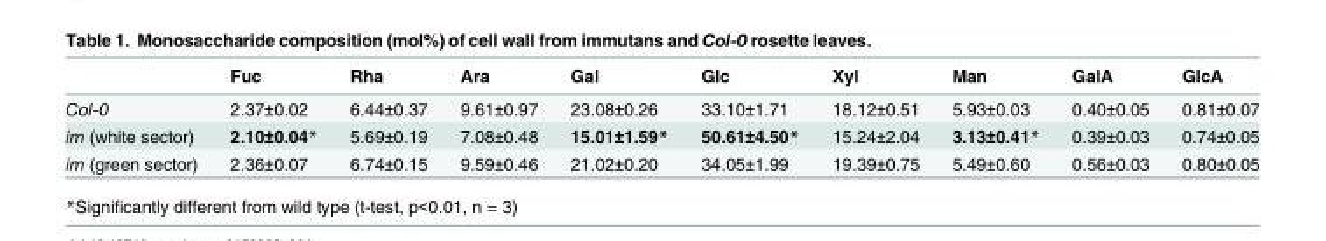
<table><thead><tr><td></td><td>Fuc</td><td>Rha</td><td>Ara</td><td>Gal</td><td>Glc</td><td>Xyl</td><td>Man</td><td>GalA</td><td>GlcA</td></tr></thead><tbody><tr><td>Col-0</td><td>2.37±0.02</td><td>6.44±0.37</td><td>9.61±0.97</td><td>23.08±0.26</td><td>33.10±1.71</td><td>18.12±0.51</td><td>5.93±0.03</td><td>0.40±0.05</td><td>0.81±0.07</td></tr><tr><td>im (white sector)</td><td>2.10±0.04*</td><td>5.69±0.19</td><td>7.08±0.48</td><td>15.01±1.59*</td><td>50.61±4.50*</td><td>15.24±2.04</td><td>3.13±0.41*</td><td>0.39±0.03</td><td>0.74±0.05</td></tr><tr><td>im (green sector)</td><td>2.36±0.07</td><td>6.74±0.15</td><td>9.59±0.46</td><td>21.02±0.20</td><td>34.05±1.99</td><td>19.39±0.75</td><td>5.49±0.60</td><td>0.56±0.03</td><td>0.80±0.05</td></tr></tbody></table>